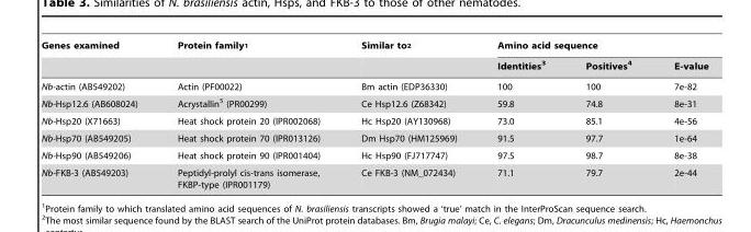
<table><thead><tr><td rowspan="2">Genes examined</td><td rowspan="2">Protein family<sup>1</sup></td><td rowspan="2">Similar to<sup>2</sup></td><td colspan="3">Amino acid sequence</td></tr><tr><td>Identities<sup>3</sup></td><td>Positives<sup>4</sup></td><td>E-value</td></tr></thead><tbody><tr><td>Nb-actin (AB549202)</td><td>Actin (PF00022)</td><td>Bm actin (EDP36330)</td><td>100</td><td>100</td><td>7e-82</td></tr><tr><td>Nb-Hsp12.6 (AB608024)</td><td>Acrystallin<sup>5</sup> (PR00299)</td><td>Ce Hsp12.6 (Z68342)</td><td>59.8</td><td>74.8</td><td>8e-31</td></tr><tr><td>Nb-Hsp20 (X71663)</td><td>Heat shock protein 20 (IPR002068)</td><td>Hc Hsp20 (AY130968)</td><td>73.0</td><td>85.1</td><td>4e-56</td></tr><tr><td>Nb-Hsp70 (AB549205)</td><td>Heat shock protein 70 (IPR013126)</td><td>Dm Hsp70 (HM125969)</td><td>91.5</td><td>97.7</td><td>1e-64</td></tr><tr><td>Nb-Hsp90 (AB549206)</td><td>Heat shock protein 90 (IPR001404)</td><td>Hc Hsp90 (FJ717747)</td><td>97.5</td><td>98.7</td><td>8e-38</td></tr><tr><td>Nb-FKB-3 (AB549203)</td><td>Peptidyl-prolyl cis-trans isomerase, FKBP-type (IPR001179)</td><td>Ce FKB-3 (NM_072434)</td><td>71.1</td><td>79.7</td><td>2e-44</td></tr></tbody></table>